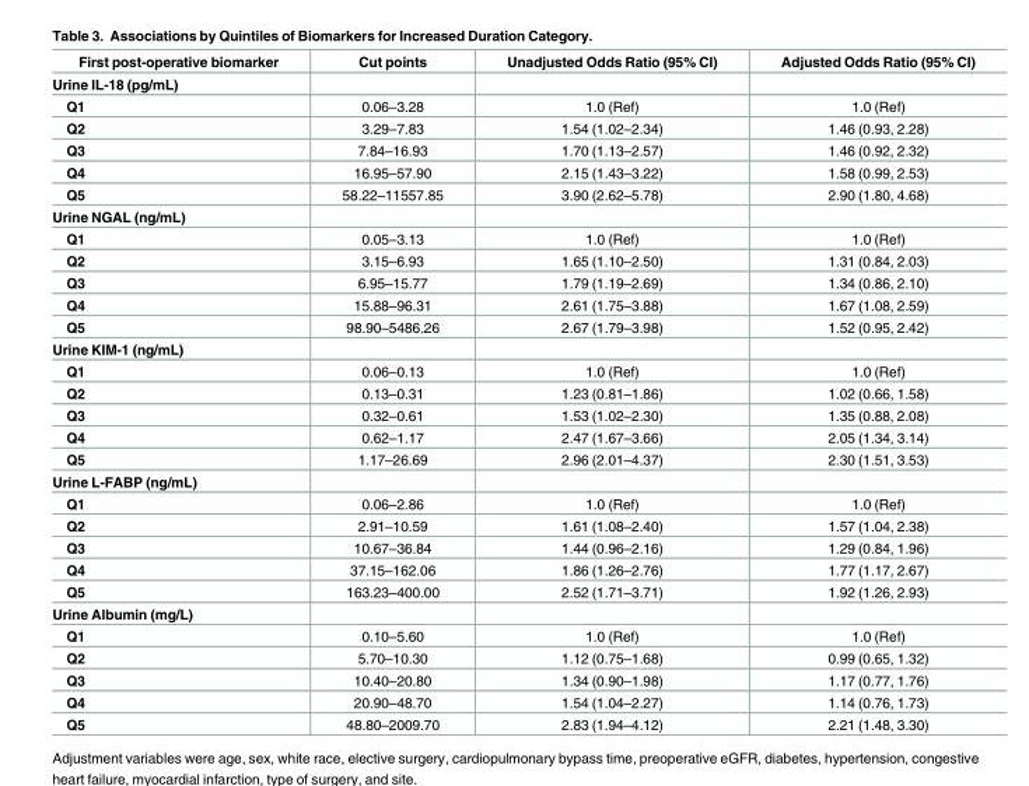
<table><thead><tr><td>First post-operative biomarker</td><td>Cut points</td><td>Unadjusted Odds Ratio (95% CI)</td><td>Adjusted Odds Ratio (95% CI)</td></tr></thead><tbody><tr><td colspan="4">Urine IL-18 (pg/mL)</td></tr><tr><td>Q1</td><td>0.06–3.28</td><td>1.0 (Ref)</td><td>1.0 (Ref)</td></tr><tr><td>Q2</td><td>3.29–7.83</td><td>1.54 (1.02–2.34)</td><td>1.46 (0.93, 2.28)</td></tr><tr><td>Q3</td><td>7.84–16.93</td><td>1.70 (1.13–2.57)</td><td>1.46 (0.92, 2.32)</td></tr><tr><td>Q4</td><td>16.95–57.90</td><td>2.15 (1.43–3.22)</td><td>1.58 (0.99, 2.53)</td></tr><tr><td>Q5</td><td>58.22–11557.85</td><td>3.90 (2.62–5.78)</td><td>2.90 (1.80, 4.68)</td></tr><tr><td colspan="4">Urine NGAL (ng/mL)</td></tr><tr><td>Q1</td><td>0.05–3.13</td><td>1.0 (Ref)</td><td>1.0 (Ref)</td></tr><tr><td>Q2</td><td>3.15–6.93</td><td>1.65 (1.10–2.50)</td><td>1.31 (0.84, 2.03)</td></tr><tr><td>Q3</td><td>6.95–15.77</td><td>1.79 (1.19–2.69)</td><td>1.34 (0.86, 2.10)</td></tr><tr><td>Q4</td><td>15.88–96.31</td><td>2.61 (1.75–3.88)</td><td>1.67 (1.08, 2.59)</td></tr><tr><td>Q5</td><td>98.90–5486.26</td><td>2.67 (1.79–3.98)</td><td>1.52 (0.95, 2.42)</td></tr><tr><td colspan="4">Urine KIM-1 (ng/mL)</td></tr><tr><td>Q1</td><td>0.06–0.13</td><td>1.0 (Ref)</td><td>1.0 (Ref)</td></tr><tr><td>Q2</td><td>0.13–0.31</td><td>1.23 (0.81–1.86)</td><td>1.02 (0.66, 1.58)</td></tr><tr><td>Q3</td><td>0.32–0.61</td><td>1.53 (1.02–2.30)</td><td>1.35 (0.88, 2.08)</td></tr><tr><td>Q4</td><td>0.62–1.17</td><td>2.47 (1.67–3.66)</td><td>2.05 (1.34, 3.14)</td></tr><tr><td>Q5</td><td>1.17–26.69</td><td>2.96 (2.01–4.37)</td><td>2.30 (1.51, 3.53)</td></tr><tr><td colspan="4">Urine L-FABP (ng/mL)</td></tr><tr><td>Q1</td><td>0.06–2.86</td><td>1.0 (Ref)</td><td>1.0 (Ref)</td></tr><tr><td>Q2</td><td>2.91–10.59</td><td>1.61 (1.08–2.40)</td><td>1.57 (1.04, 2.38)</td></tr><tr><td>Q3</td><td>10.67–36.84</td><td>1.44 (0.96–2.16)</td><td>1.29 (0.84, 1.96)</td></tr><tr><td>Q4</td><td>37.15–162.06</td><td>1.86 (1.26–2.76)</td><td>1.77 (1.17, 2.67)</td></tr><tr><td>Q5</td><td>163.23–400.00</td><td>2.52 (1.71–3.71)</td><td>1.92 (1.26, 2.93)</td></tr><tr><td colspan="4">Urine Albumin (mg/L)</td></tr><tr><td>Q1</td><td>0.10–5.60</td><td>1.0 (Ref)</td><td>1.0 (Ref)</td></tr><tr><td>Q2</td><td>5.70–10.30</td><td>1.12 (0.75–1.68)</td><td>0.99 (0.65, 1.32)</td></tr><tr><td>Q3</td><td>10.40–20.80</td><td>1.34 (0.90–1.98)</td><td>1.17 (0.77, 1.76)</td></tr><tr><td>Q4</td><td>20.90–48.70</td><td>1.54 (1.04–2.27)</td><td>1.14 (0.76, 1.73)</td></tr><tr><td>Q5</td><td>48.80–2009.70</td><td>2.83 (1.94–4.12)</td><td>2.21 (1.48, 3.30)</td></tr></tbody></table>